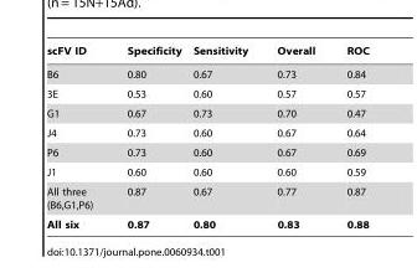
<table><thead><tr><td>scFV ID</td><td>Specificity</td><td>Sensitivity</td><td>Overall</td><td>ROC</td></tr></thead><tbody><tr><td>B6</td><td>0.80</td><td>0.67</td><td>0.73</td><td>0.84</td></tr><tr><td>3E</td><td>0.53</td><td>0.60</td><td>0.57</td><td>0.57</td></tr><tr><td>G1</td><td>0.67</td><td>0.73</td><td>0.70</td><td>0.47</td></tr><tr><td>J4</td><td>0.73</td><td>0.60</td><td>0.67</td><td>0.64</td></tr><tr><td>P6</td><td>0.73</td><td>0.60</td><td>0.67</td><td>0.69</td></tr><tr><td>J1</td><td>0.60</td><td>0.60</td><td>0.60</td><td>0.59</td></tr><tr><td>All three (B6,G1,P6)</td><td>0.87</td><td>0.67</td><td>0.77</td><td>0.87</td></tr><tr><td>All six</td><td>0.87</td><td>0.80</td><td>0.83</td><td>0.88</td></tr></tbody></table>